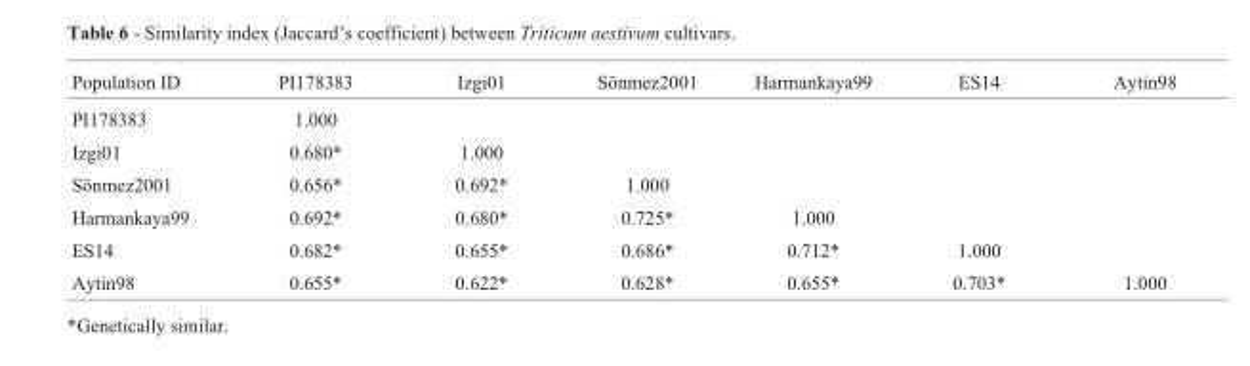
<table><thead><tr><td>Population ID</td><td>PI178383</td><td>Izgi01</td><td>Sönmez2001</td><td>Harmankaya99</td><td>ES14</td><td>Aytin98</td></tr></thead><tbody><tr><td>PI178383</td><td>1.000</td><td></td><td></td><td></td><td></td><td></td></tr><tr><td>Izgi01</td><td>0.680*</td><td>1.000</td><td></td><td></td><td></td><td></td></tr><tr><td>Sönmez2001</td><td>0.656*</td><td>0.692*</td><td>1.000</td><td></td><td></td><td></td></tr><tr><td>Harmankaya99</td><td>0.692*</td><td>0.680*</td><td>0.725*</td><td>1.000</td><td></td><td></td></tr><tr><td>ES14</td><td>0.682*</td><td>0.655*</td><td>0.686*</td><td>0.712*</td><td>1.000</td><td></td></tr><tr><td>Aytin98</td><td>0.655*</td><td>0.622*</td><td>0.628*</td><td>0.655*</td><td>0.703*</td><td>1.000</td></tr></tbody></table>